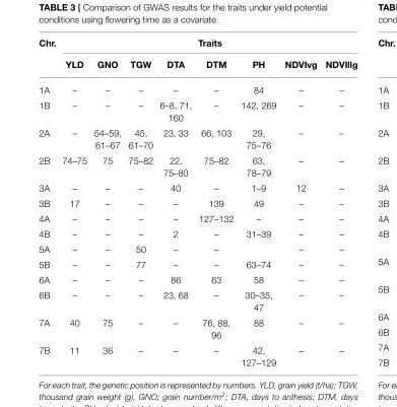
<table><thead><tr><td rowspan="2">Chr.</td><td colspan="8">Traits</td></tr><tr><td>YLD</td><td>GNO</td><td>TGW</td><td>DTA</td><td>DTM</td><td>PH</td><td>NDVIvg</td><td>NDVIllg</td></tr></thead><tbody><tr><td>1A</td><td>–</td><td>–</td><td>–</td><td>–</td><td>–</td><td>84</td><td>–</td><td>–</td></tr><tr><td>1B</td><td>–</td><td>–</td><td>–</td><td>6–8, 71, 160</td><td>–</td><td>142, 269</td><td>–</td><td>–</td></tr><tr><td>2A</td><td>–</td><td>54–59, 61–67</td><td>45, 61–70</td><td>23, 33</td><td>66, 103</td><td>29, 75–76</td><td>–</td><td>–</td></tr><tr><td>2B</td><td>74–75</td><td>75</td><td>75–82</td><td>22, 75–80</td><td>75–82</td><td>63, 78–79</td><td>–</td><td>–</td></tr><tr><td>3A</td><td>–</td><td>–</td><td>–</td><td>40</td><td>–</td><td>1–9</td><td>12</td><td>–</td></tr><tr><td>3B</td><td>17</td><td>–</td><td>–</td><td>–</td><td>139</td><td>49</td><td>–</td><td>–</td></tr><tr><td>4A</td><td>–</td><td>–</td><td>–</td><td>–</td><td>127–132</td><td>–</td><td>–</td><td>–</td></tr><tr><td>4B</td><td>–</td><td>–</td><td>–</td><td>2</td><td>–</td><td>31–39</td><td>–</td><td>–</td></tr><tr><td>5A</td><td>–</td><td>–</td><td>50</td><td>–</td><td>–</td><td></td><td>–</td><td>–</td></tr><tr><td>5B</td><td>–</td><td>–</td><td>77</td><td>–</td><td>–</td><td>63–74</td><td>–</td><td>–</td></tr><tr><td>6A</td><td>–</td><td>–</td><td>–</td><td>86</td><td>63</td><td>58</td><td>–</td><td>–</td></tr><tr><td>6B</td><td>–</td><td>–</td><td>–</td><td>23, 68</td><td>–</td><td>30–35, 47</td><td>–</td><td>–</td></tr><tr><td>7A</td><td>40</td><td>75</td><td>–</td><td>–</td><td>76, 88, 96</td><td>88</td><td>–</td><td>–</td></tr><tr><td>7B</td><td>11</td><td>36</td><td>–</td><td>–</td><td>–</td><td>42, 127–129</td><td>–</td><td>–</td></tr></tbody></table>